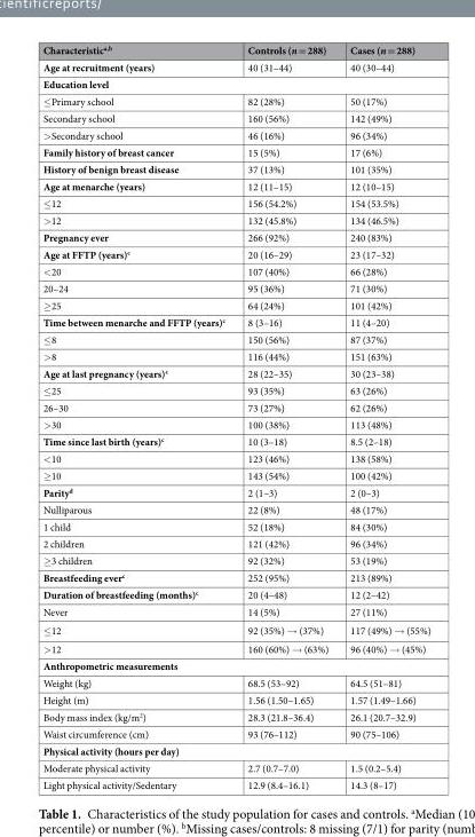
<table><thead><tr><td>Characteristic<sup>a,b</sup></td><td>Controls (n = 288)</td><td>Cases (n = 288)</td></tr></thead><tbody><tr><td>Age at recruitment (years)</td><td>40 (31–44)</td><td>40 (30–44)</td></tr><tr><td colspan="3">Education level</td></tr><tr><td>≤Primary school</td><td>82 (28%)</td><td>50 (17%)</td></tr><tr><td>Secondary school</td><td>160 (56%)</td><td>142 (49%)</td></tr><tr><td>&gt;Secondary school</td><td>46 (16%)</td><td>96 (34%)</td></tr><tr><td>Family history of breast cancer</td><td>15 (5%)</td><td>17 (6%)</td></tr><tr><td>History of benign breast disease</td><td>37 (13%)</td><td>101 (35%)</td></tr><tr><td>Age at menarche (years)</td><td>12 (11–15)</td><td>12 (10–15)</td></tr><tr><td>≤12</td><td>156 (54.2%)</td><td>154 (53.5%)</td></tr><tr><td>&gt;12</td><td>132 (45.8%)</td><td>134 (46.5%)</td></tr><tr><td>Pregnancy ever</td><td>266 (92%)</td><td>240 (83%)</td></tr><tr><td>Age at FFTP (years)<sup>c</sup></td><td>20 (16–29)</td><td>23 (17–32)</td></tr><tr><td>&lt;20</td><td>107 (40%)</td><td>66 (28%)</td></tr><tr><td>20–24</td><td>95 (36%)</td><td>71 (30%)</td></tr><tr><td>≥25</td><td>64 (24%)</td><td>101 (42%)</td></tr><tr><td>Time between menarche and FFTP (years)<sup>c</sup></td><td>8 (3–16)</td><td>11 (4–20)</td></tr><tr><td>≤8</td><td>150 (56%)</td><td>87 (37%)</td></tr><tr><td>&gt;8</td><td>116 (44%)</td><td>151 (63%)</td></tr><tr><td>Age at last pregnancy (years)<sup>c</sup></td><td>28 (22–35)</td><td>30 (23–38)</td></tr><tr><td>≤25</td><td>93 (35%)</td><td>63 (26%)</td></tr><tr><td>26–30</td><td>73 (27%)</td><td>62 (26%)</td></tr><tr><td>&gt;30</td><td>100 (38%)</td><td>113 (48%)</td></tr><tr><td>Time since last birth (years)<sup>c</sup></td><td>10 (3–18)</td><td>8.5 (2–18)</td></tr><tr><td>&lt;10</td><td>123 (46%)</td><td>138 (58%)</td></tr><tr><td>≥10</td><td>143 (54%)</td><td>100 (42%)</td></tr><tr><td>Parity<sup>d</sup></td><td>2 (1–3)</td><td>2 (0–3)</td></tr><tr><td>Nulliparous</td><td>22 (8%)</td><td>48 (17%)</td></tr><tr><td>1 child</td><td>52 (18%)</td><td>84 (30%)</td></tr><tr><td>2 children</td><td>121 (42%)</td><td>96 (34%)</td></tr><tr><td>≥3 children</td><td>92 (32%)</td><td>53 (19%)</td></tr><tr><td>Breastfeeding ever<sup>c</sup></td><td>252 (95%)</td><td>213 (89%)</td></tr><tr><td>Duration of breastfeeding (months)<sup>c</sup></td><td>20 (4–48)</td><td>12 (2–42)</td></tr><tr><td>Never</td><td>14 (5%)</td><td>27 (11%)</td></tr><tr><td>≤12</td><td>92 (35%) → (37%)</td><td>117 (49%) → (55%)</td></tr><tr><td>&gt;12</td><td>160 (60%) → (63%)</td><td>96 (40%) → (45%)</td></tr><tr><td colspan="3">Anthropometric measurements</td></tr><tr><td>Weight (kg)</td><td>68.5 (53–92)</td><td>64.5 (51–81)</td></tr><tr><td>Height (m)</td><td>1.56 (1.50–1.65)</td><td>1.57 (1.49–1.66)</td></tr><tr><td>Body mass index (kg/m<sup>2</sup>)</td><td>28.3 (21.8–36.4)</td><td>26.1 (20.7–32.9)</td></tr><tr><td>Waist circumference (cm)</td><td>93 (76–112)</td><td>90 (75–106)</td></tr><tr><td colspan="3">Physical activity (hours per day)</td></tr><tr><td>Moderate physical activity</td><td>2.7 (0.7–7.0)</td><td>1.5 (0.2–5.4)</td></tr><tr><td>Light physical activity/Sedentary</td><td>12.9 (8.4–16.1)</td><td>14.3 (8–17)</td></tr></tbody></table>